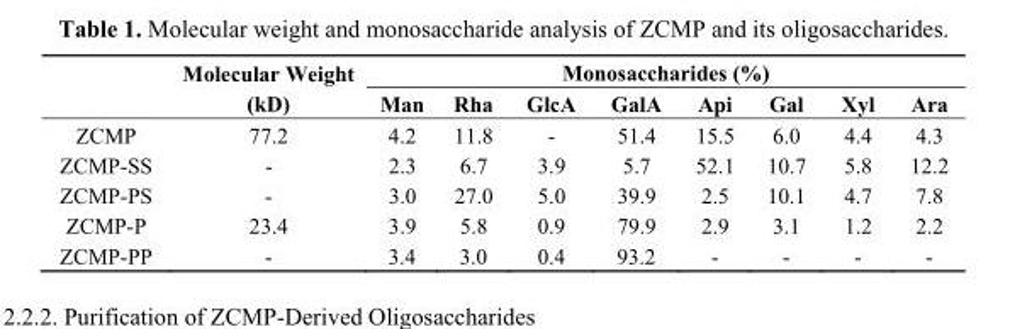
<table><thead><tr><td rowspan="2"></td><td rowspan="2">Molecular Weight (kD)</td><td colspan="8">Monosaccharides (%)</td></tr><tr><td>Man</td><td>Rha</td><td>GlcA</td><td>GalA</td><td>Api</td><td>Gal</td><td>Xyl</td><td>Ara</td></tr></thead><tbody><tr><td>ZCMP</td><td>77.2</td><td>4.2</td><td>11.8</td><td>-</td><td>51.4</td><td>15.5</td><td>6.0</td><td>4.4</td><td>4.3</td></tr><tr><td>ZCMP-SS</td><td>-</td><td>2.3</td><td>6.7</td><td>3.9</td><td>5.7</td><td>52.1</td><td>10.7</td><td>5.8</td><td>12.2</td></tr><tr><td>ZCMP-PS</td><td>-</td><td>3.0</td><td>27.0</td><td>5.0</td><td>39.9</td><td>2.5</td><td>10.1</td><td>4.7</td><td>7.8</td></tr><tr><td>ZCMP-P</td><td>23.4</td><td>3.9</td><td>5.8</td><td>0.9</td><td>79.9</td><td>2.9</td><td>3.1</td><td>1.2</td><td>2.2</td></tr><tr><td>ZCMP-PP</td><td>-</td><td>3.4</td><td>3.0</td><td>0.4</td><td>93.2</td><td>-</td><td>-</td><td>-</td><td>-</td></tr></tbody></table>